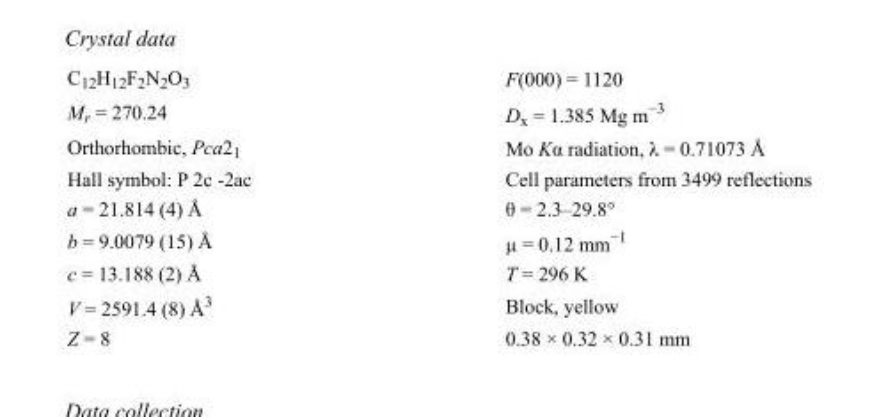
<table><tbody><tr><td>C<sub>12</sub>H<sub>12</sub>F<sub>2</sub>N<sub>2</sub>O<sub>3</sub></td><td>F(000) = 1120</td></tr><tr><td>M<sub>r</sub> = 270.24</td><td>D<sub>x</sub> = 1.385 Mg m<sup>−3</sup></td></tr><tr><td>Orthorhombic, Pca2<sub>1</sub></td><td>Mo Kα radiation, λ = 0.71073 Å</td></tr><tr><td>Hall symbol: P 2c -2ac</td><td>Cell parameters from 3499 reflections</td></tr><tr><td>a = 21.814 (4) Å</td><td>θ = 2.3–29.8°</td></tr><tr><td>b = 9.0079 (15) Å</td><td>µ = 0.12 mm<sup>−1</sup></td></tr><tr><td>c = 13.188 (2) Å</td><td>T = 296 K</td></tr><tr><td>V = 2591.4 (8) Å<sup>3</sup></td><td>Block, yellow</td></tr><tr><td>Z = 8</td><td>0.38 × 0.32 × 0.31 mm</td></tr></tbody></table>